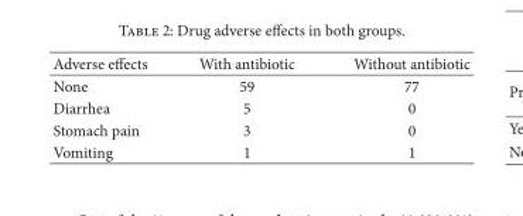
<table><thead><tr><td>Adverse effects</td><td>With antibiotic</td><td>Without antibiotic</td></tr></thead><tbody><tr><td>None</td><td>59</td><td>77</td></tr><tr><td>Diarrhea</td><td>5</td><td>0</td></tr><tr><td>Stomach pain</td><td>3</td><td>0</td></tr><tr><td>Vomiting</td><td>1</td><td>1</td></tr></tbody></table>